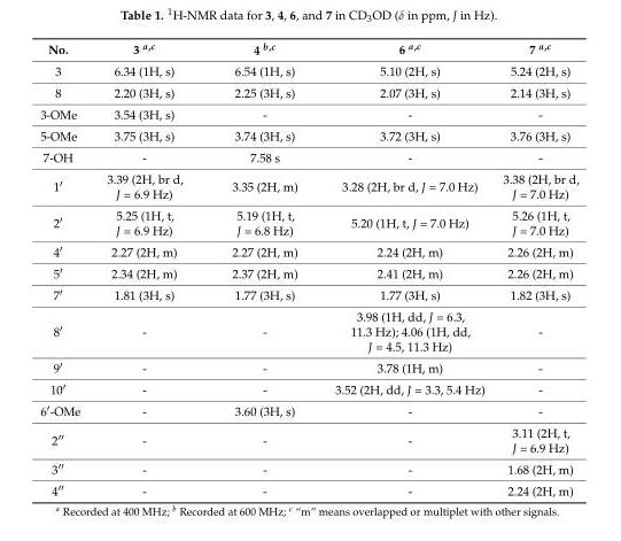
<table><thead><tr><td>No.</td><td>3 <sup>a,c</sup></td><td>4 <sup>b,c</sup></td><td>6 <sup>a,c</sup></td><td>7 <sup>a,c</sup></td></tr></thead><tbody><tr><td>3</td><td>6.34 (1H, s)</td><td>6.54 (1H, s)</td><td>5.10 (2H, s)</td><td>5.24 (2H, s)</td></tr><tr><td>8</td><td>2.20 (3H, s)</td><td>2.25 (3H, s)</td><td>2.07 (3H, s)</td><td>2.14 (3H, s)</td></tr><tr><td>3-OMe</td><td>3.54 (3H, s)</td><td>-</td><td>-</td><td>-</td></tr><tr><td>5-OMe</td><td>3.75 (3H, s)</td><td>3.74 (3H, s)</td><td>3.72 (3H, s)</td><td>3.76 (3H, s)</td></tr><tr><td>7-OH</td><td>-</td><td>7.58 s</td><td>-</td><td>-</td></tr><tr><td>1′</td><td>3.39 (2H, br d, J = 6.9 Hz)</td><td>3.35 (2H, m)</td><td>3.28 (2H, br d, J = 7.0 Hz)</td><td>3.38 (2H, br d, J = 7.0 Hz)</td></tr><tr><td>2′</td><td>5.25 (1H, t, J = 6.9 Hz)</td><td>5.19 (1H, t, J = 6.8 Hz)</td><td>5.20 (1H, t, J = 7.0 Hz)</td><td>5.26 (1H, t, J = 7.0 Hz)</td></tr><tr><td>4′</td><td>2.27 (2H, m)</td><td>2.27 (2H, m)</td><td>2.24 (2H, m)</td><td>2.26 (2H, m)</td></tr><tr><td>5′</td><td>2.34 (2H, m)</td><td>2.37 (2H, m)</td><td>2.41 (2H, m)</td><td>2.26 (2H, m)</td></tr><tr><td>7′</td><td>1.81 (3H, s)</td><td>1.77 (3H, s)</td><td>1.77 (3H, s)</td><td>1.82 (3H, s)</td></tr><tr><td>8′</td><td>-</td><td>-</td><td>3.98 (1H, dd, J = 6.3, 11.3 Hz); 4.06 (1H, dd, J = 4.5, 11.3 Hz)</td><td>-</td></tr><tr><td>9′</td><td>-</td><td>-</td><td>3.78 (1H, m)</td><td>-</td></tr><tr><td>10′</td><td>-</td><td>-</td><td>3.52 (2H, dd, J = 3.3, 5.4 Hz)</td><td>-</td></tr><tr><td>6′-OMe</td><td>-</td><td>3.60 (3H, s)</td><td>-</td><td>-</td></tr><tr><td>2′′</td><td>-</td><td>-</td><td>-</td><td>3.11 (2H, t, J = 6.9 Hz)</td></tr><tr><td>3′′</td><td>-</td><td>-</td><td>-</td><td>1.68 (2H, m)</td></tr><tr><td>4′′</td><td>-</td><td>-</td><td>-</td><td>2.24 (2H, m)</td></tr></tbody></table>